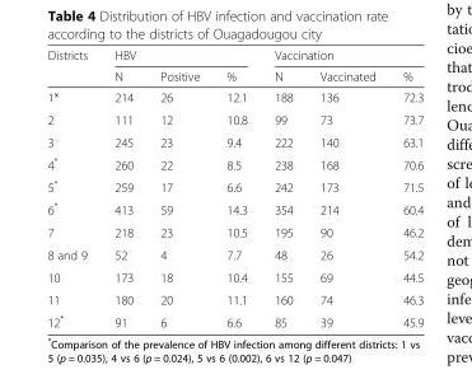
<table><thead><tr><td rowspan="2">Districts</td><td colspan="3">HBV</td><td colspan="3">Vaccination</td></tr><tr><td>N</td><td>Positive</td><td>%</td><td>N</td><td>Vaccinated</td><td>%</td></tr></thead><tbody><tr><td>1*</td><td>214</td><td>26</td><td>12.1</td><td>188</td><td>136</td><td>72.3</td></tr><tr><td>2</td><td>111</td><td>12</td><td>10.8</td><td>99</td><td>73</td><td>73.7</td></tr><tr><td>3</td><td>245</td><td>23</td><td>9.4</td><td>222</td><td>140</td><td>63.1</td></tr><tr><td>4*</td><td>260</td><td>22</td><td>8.5</td><td>238</td><td>168</td><td>70.6</td></tr><tr><td>5*</td><td>259</td><td>17</td><td>6.6</td><td>242</td><td>173</td><td>71.5</td></tr><tr><td>6*</td><td>413</td><td>59</td><td>14.3</td><td>354</td><td>214</td><td>60.4</td></tr><tr><td>7</td><td>218</td><td>23</td><td>10.5</td><td>195</td><td>90</td><td>46.2</td></tr><tr><td>8 and 9</td><td>52</td><td>4</td><td>7.7</td><td>48</td><td>26</td><td>54.2</td></tr><tr><td>10</td><td>173</td><td>18</td><td>10.4</td><td>155</td><td>69</td><td>44.5</td></tr><tr><td>11</td><td>180</td><td>20</td><td>11.1</td><td>160</td><td>74</td><td>46.3</td></tr><tr><td>12*</td><td>91</td><td>6</td><td>6.6</td><td>85</td><td>39</td><td>45.9</td></tr></tbody></table>